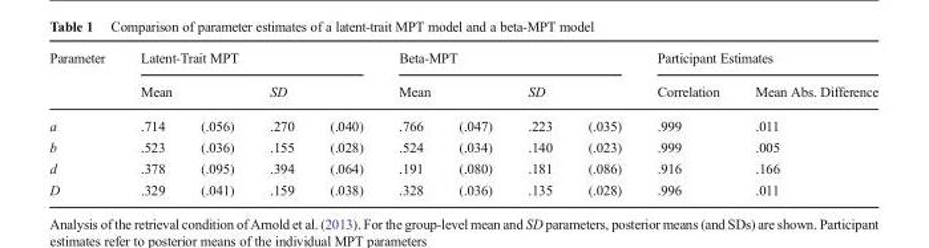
<table><thead><tr><td rowspan="3">Parameter a</td><td colspan="4">Latent-Trait MPT</td><td colspan="4">Beta-MPT</td><td colspan="2">Participant Estimates</td></tr><tr><td colspan="2">Mean</td><td colspan="2">SD</td><td colspan="2">Mean</td><td colspan="2">SD</td><td rowspan="2">Correlation .999</td><td rowspan="2">Mean Abs. Difference .011</td></tr><tr><td>.714</td><td>(.056)</td><td>.270</td><td>(.040)</td><td>.766</td><td>(.047)</td><td>.223</td><td>(.035)</td></tr></thead><tbody><tr><td>b</td><td>.523</td><td>(.036)</td><td>.155</td><td>(.028)</td><td>.524</td><td>(.034)</td><td>.140</td><td>(.023)</td><td>.999</td><td>.005</td></tr><tr><td>d</td><td>.378</td><td>(.095)</td><td>.394</td><td>(.064)</td><td>.191</td><td>(.080)</td><td>.181</td><td>(.086)</td><td>.916</td><td>.166</td></tr><tr><td>D</td><td>.329</td><td>(.041)</td><td>.159</td><td>(.038)</td><td>.328</td><td>(.036)</td><td>.135</td><td>(.028)</td><td>.996</td><td>.011</td></tr></tbody></table>